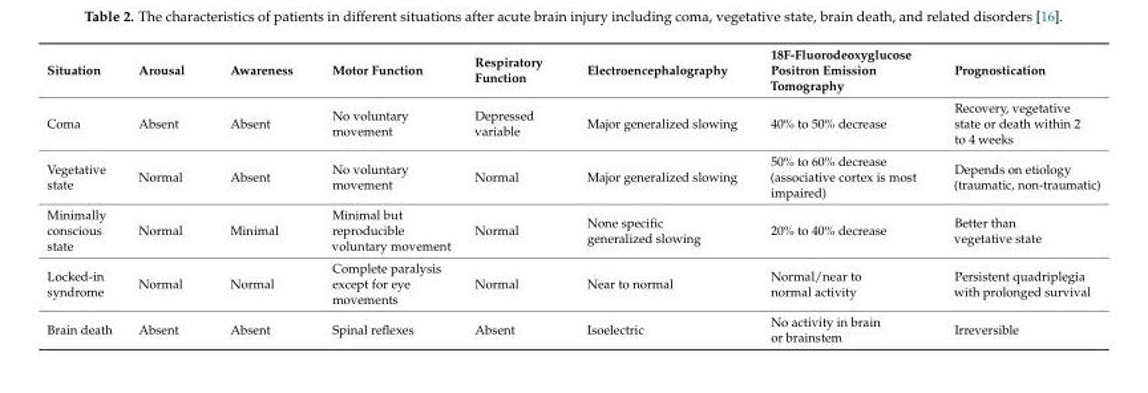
<table><thead><tr><td>Situation</td><td>Arousal</td><td>Awareness</td><td>Motor Function</td><td>Respiratory Function</td><td>Electroencephalography</td><td>18F-Fluorodeoxyglucose Positron Emission Tomography</td><td>Prognostication</td></tr></thead><tbody><tr><td>Coma</td><td>Absent</td><td>Absent</td><td>No voluntary movement</td><td>Depressed variable</td><td>Major generalized slowing</td><td>40% to 50% decrease</td><td>Recovery, vegetative state or death within 2 to 4 weeks</td></tr><tr><td>Vegetative state</td><td>Normal</td><td>Absent</td><td>No voluntary movement</td><td>Normal</td><td>Major generalized slowing</td><td>50% to 60% decrease (associative cortex is most impaired)</td><td>Depends on etiology (traumatic, non-traumatic)</td></tr><tr><td>Minimally conscious state</td><td>Normal</td><td>Minimal</td><td>Minimal but reproducible voluntary movement</td><td>Normal</td><td>None specific generalized slowing</td><td>20% to 40% decrease</td><td>Better than vegetative state</td></tr><tr><td>Locked-in syndrome</td><td>Normal</td><td>Normal</td><td>Complete paralysis except for eye movements</td><td>Normal</td><td>Near to normal</td><td>Normal/near to normal activity</td><td>Persistent quadriplegia with prolonged survival</td></tr><tr><td>Brain death</td><td>Absent</td><td>Absent</td><td>Spinal reflexes</td><td>Absent</td><td>Isoelectric</td><td>No activity in brain or brainstem</td><td>Irreversible</td></tr></tbody></table>